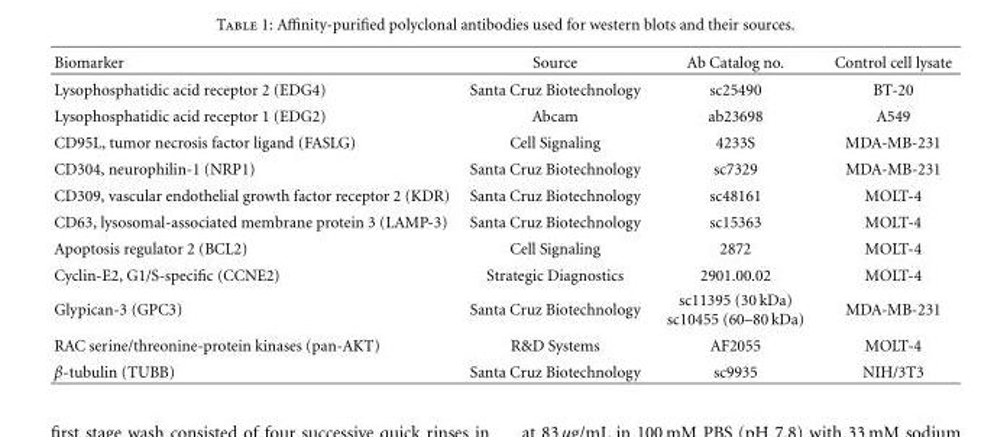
<table><thead><tr><td>Biomarker</td><td>Source</td><td>Ab Catalog no.</td><td>Control cell lysate</td></tr></thead><tbody><tr><td>Lysophosphatidic acid receptor 2 (EDG4)</td><td>Santa Cruz Biotechnology</td><td>sc25490</td><td>BT-20</td></tr><tr><td>Lysophosphatidic acid receptor 1 (EDG2)</td><td>Abcam</td><td>ab23698</td><td>A549</td></tr><tr><td>CD95L, tumor necrosis factor ligand (FASLG)</td><td>Cell Signaling</td><td>4233S</td><td>MDA-MB-231</td></tr><tr><td>CD304, neurophilin-1 (NRP1)</td><td>Santa Cruz Biotechnology</td><td>sc7329</td><td>MDA-MB-231</td></tr><tr><td>CD309, vascular endothelial growth factor receptor 2 (KDR)</td><td>Santa Cruz Biotechnology</td><td>sc48161</td><td>MOLT-4</td></tr><tr><td>CD63, lysosomal-associated membrane protein 3 (LAMP-3)</td><td>Santa Cruz Biotechnology</td><td>sc15363</td><td>MOLT-4</td></tr><tr><td>Apoptosis regulator 2 (BCL2)</td><td>Cell Signaling</td><td>2872</td><td>MOLT-4</td></tr><tr><td>Cyclin-E2, G1/S-specific (CCNE2)</td><td>Strategic Diagnostics</td><td>2901.00.02</td><td>MOLT-4</td></tr><tr><td>Glypican-3 (GPC3)</td><td>Santa Cruz Biotechnology</td><td>sc11395 (30 kDa) sc10455 (60–80 kDa)</td><td>MDA-MB-231</td></tr><tr><td>RAC serine/threonine-protein kinases (pan-AKT)</td><td>R&amp;D Systems</td><td>AF2055</td><td>MOLT-4</td></tr><tr><td>β-tubulin (TUBB)</td><td>Santa Cruz Biotechnology</td><td>sc9935</td><td>NIH/3T3</td></tr></tbody></table>